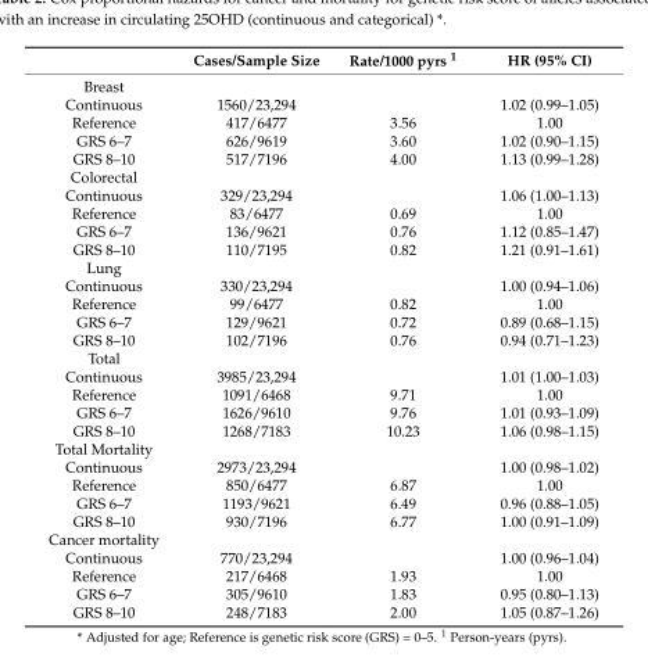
<table><thead><tr><td></td><td>Cases/Sample Size</td><td>Rate/1000 pyrs <sup>1</sup></td><td>HR (95% CI)</td></tr></thead><tbody><tr><td colspan="4">Breast</td></tr><tr><td>Continuous</td><td>1560/23,294</td><td></td><td>1.02 (0.99–1.05)</td></tr><tr><td>Reference</td><td>417/6477</td><td>3.56</td><td>1.00</td></tr><tr><td>GRS 6–7</td><td>626/9619</td><td>3.60</td><td>1.02 (0.90–1.15)</td></tr><tr><td>GRS 8–10</td><td>517/7196</td><td>4.00</td><td>1.13 (0.99–1.28)</td></tr><tr><td colspan="4">Colorectal</td></tr><tr><td>Continuous</td><td>329/23,294</td><td></td><td>1.06 (1.00–1.13)</td></tr><tr><td>Reference</td><td>83/6477</td><td>0.69</td><td>1.00</td></tr><tr><td>GRS 6–7</td><td>136/9621</td><td>0.76</td><td>1.12 (0.85–1.47)</td></tr><tr><td>GRS 8–10</td><td>110/7195</td><td>0.82</td><td>1.21 (0.91–1.61)</td></tr><tr><td colspan="4">Lung</td></tr><tr><td>Continuous</td><td>330/23,294</td><td></td><td>1.00 (0.94–1.06)</td></tr><tr><td>Reference</td><td>99/6477</td><td>0.82</td><td>1.00</td></tr><tr><td>GRS 6–7</td><td>129/9621</td><td>0.72</td><td>0.89 (0.68–1.15)</td></tr><tr><td>GRS 8–10</td><td>102/7196</td><td>0.76</td><td>0.94 (0.71–1.23)</td></tr><tr><td colspan="4">Total</td></tr><tr><td>Continuous</td><td>3985/23,294</td><td></td><td>1.01 (1.00–1.03)</td></tr><tr><td>Reference</td><td>1091/6468</td><td>9.71</td><td>1.00</td></tr><tr><td>GRS 6–7</td><td>1626/9610</td><td>9.76</td><td>1.01 (0.93–1.09)</td></tr><tr><td>GRS 8–10</td><td>1268/7183</td><td>10.23</td><td>1.06 (0.98–1.15)</td></tr><tr><td colspan="4">Total Mortality</td></tr><tr><td>Continuous</td><td>2973/23,294</td><td></td><td>1.00 (0.98–1.02)</td></tr><tr><td>Reference</td><td>850/6477</td><td>6.87</td><td>1.00</td></tr><tr><td>GRS 6–7</td><td>1193/9621</td><td>6.49</td><td>0.96 (0.88–1.05)</td></tr><tr><td>GRS 8–10</td><td>930/7196</td><td>6.77</td><td>1.00 (0.91–1.09)</td></tr><tr><td colspan="4">Cancer mortality</td></tr><tr><td>Continuous</td><td>770/23,294</td><td></td><td>1.00 (0.96–1.04)</td></tr><tr><td>Reference</td><td>217/6468</td><td>1.93</td><td>1.00</td></tr><tr><td>GRS 6–7</td><td>305/9610</td><td>1.83</td><td>0.95 (0.80–1.13)</td></tr><tr><td>GRS 8–10</td><td>248/7183</td><td>2.00</td><td>1.05 (0.87–1.26)</td></tr></tbody></table>